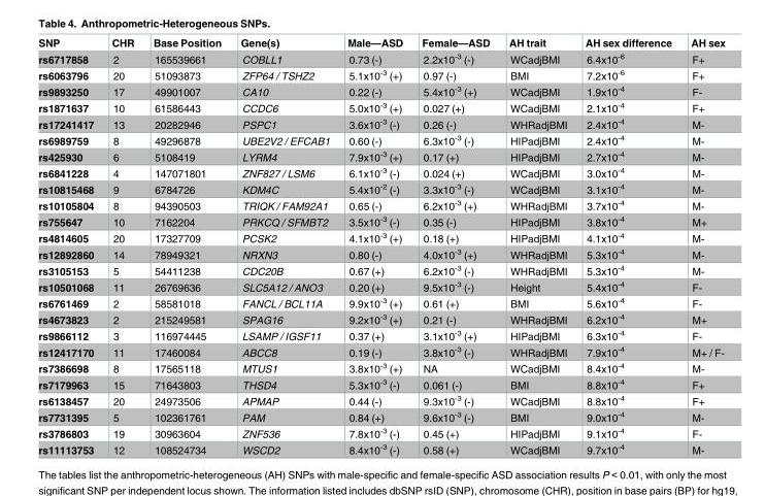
<table><thead><tr><td>SNP</td><td>CHR</td><td>Base Position</td><td>Gene(s)</td><td>Male—ASD</td><td>Female—ASD</td><td>AH trait</td><td>AH sex difference</td><td>AH sex</td></tr></thead><tbody><tr><td>rs6717858</td><td>2</td><td>165539661</td><td>COBLL1</td><td>0.73 (-)</td><td>2.2x10<sup>-3</sup> (-)</td><td>WCadjBMI</td><td>6.4x10<sup>-6</sup></td><td>F+</td></tr><tr><td>rs6063796</td><td>20</td><td>51093873</td><td>ZFP64 / TSHZ2</td><td>5.1x10<sup>-3</sup> (+)</td><td>0.97 (-)</td><td>BMI</td><td>7.2x10<sup>-6</sup></td><td>F+</td></tr><tr><td>rs9893250</td><td>17</td><td>49901007</td><td>CA10</td><td>0.22 (-)</td><td>5.4x10<sup>-3</sup> (+)</td><td>WCadjBMI</td><td>1.9x10<sup>-4</sup></td><td>F-</td></tr><tr><td>rs1871637</td><td>10</td><td>61586443</td><td>CCDC6</td><td>5.0x10<sup>-3</sup> (+)</td><td>0.027 (+)</td><td>WCadjBMI</td><td>2.1x10<sup>-4</sup></td><td>F+</td></tr><tr><td>rs17241417</td><td>13</td><td>20282946</td><td>PSPC1</td><td>3.6x10<sup>-3</sup> (-)</td><td>0.26 (-)</td><td>WHRadjBMI</td><td>2.4x10<sup>-4</sup></td><td>M-</td></tr><tr><td>rs6989759</td><td>8</td><td>49296878</td><td>UBE2V2 / EFCAB1</td><td>0.60 (-)</td><td>6.3x10<sup>-3</sup> (-)</td><td>HIPadjBMI</td><td>2.4x10<sup>-4</sup></td><td>M-</td></tr><tr><td>rs425930</td><td>6</td><td>5108419</td><td>LYRM4</td><td>7.9x10<sup>-3</sup> (+)</td><td>0.17 (+)</td><td>HIPadjBMI</td><td>2.7x10<sup>-4</sup></td><td>M-</td></tr><tr><td>rs6841228</td><td>4</td><td>147071801</td><td>ZNF827 / LSM6</td><td>6.1x10<sup>-3</sup> (-)</td><td>0.024 (+)</td><td>WCadjBMI</td><td>3.0x10<sup>-4</sup></td><td>M-</td></tr><tr><td>rs10815468</td><td>9</td><td>6784726</td><td>KDM4C</td><td>5.4x10<sup>-2</sup> (-)</td><td>3.3x10<sup>-3</sup> (-)</td><td>WCadjBMI</td><td>3.1x10<sup>-4</sup></td><td>M-</td></tr><tr><td>rs10105804</td><td>8</td><td>94390503</td><td>TRIQK / FAM92A1</td><td>0.65 (-)</td><td>6.2x10<sup>-3</sup> (+)</td><td>WHRadjBMI</td><td>3.7x10<sup>-4</sup></td><td>M-</td></tr><tr><td>rs755647</td><td>10</td><td>7162204</td><td>PRKCQ / SFMBT2</td><td>3.5x10<sup>-3</sup> (-)</td><td>0.35 (-)</td><td>HIPadjBMI</td><td>3.8x10<sup>-4</sup></td><td>M+</td></tr><tr><td>rs4814605</td><td>20</td><td>17327709</td><td>PCSK2</td><td>4.1x10<sup>-3</sup> (+)</td><td>0.18 (+)</td><td>HIPadjBMI</td><td>4.1x10<sup>-4</sup></td><td>M-</td></tr><tr><td>rs12892860</td><td>14</td><td>78949321</td><td>NRXN3</td><td>0.80 (-)</td><td>4.0x10<sup>-3</sup> (+)</td><td>WHRadjBMI</td><td>5.3x10<sup>-4</sup></td><td>M-</td></tr><tr><td>rs3105153</td><td>5</td><td>54411238</td><td>CDC20B</td><td>0.67 (+)</td><td>6.2x10<sup>-3</sup> (-)</td><td>WHRadjBMI</td><td>5.3x10<sup>-4</sup></td><td>M-</td></tr><tr><td>rs10501068</td><td>11</td><td>26769636</td><td>SLC5A12 / ANO3</td><td>0.20 (+)</td><td>9.5x10<sup>-3</sup> (-)</td><td>Height</td><td>5.4x10<sup>-4</sup></td><td>F-</td></tr><tr><td>rs6761469</td><td>2</td><td>58581018</td><td>FANCL / BCL11A</td><td>9.9x10<sup>-3</sup> (+)</td><td>0.61 (+)</td><td>BMI</td><td>5.6x10<sup>-4</sup></td><td>F-</td></tr><tr><td>rs4673823</td><td>2</td><td>215249581</td><td>SPAG16</td><td>9.2x10<sup>-3</sup> (+)</td><td>0.21 (-)</td><td>WHRadjBMI</td><td>6.2x10<sup>-4</sup></td><td>M+</td></tr><tr><td>rs9866112</td><td>3</td><td>116974445</td><td>LSAMP / IGSF11</td><td>0.37 (+)</td><td>3.1x10<sup>-3</sup> (+)</td><td>HIPadjBMI</td><td>6.3x10<sup>-4</sup></td><td>F-</td></tr><tr><td>rs12417170</td><td>11</td><td>17460084</td><td>ABCC8</td><td>0.19 (-)</td><td>3.8x10<sup>-3</sup> (-)</td><td>WHRadjBMI</td><td>7.9x10<sup>-4</sup></td><td>M+ / F-</td></tr><tr><td>rs7386698</td><td>8</td><td>17565118</td><td>MTUS1</td><td>3.8x10<sup>-3</sup> (+)</td><td>NA</td><td>WCadjBMI</td><td>8.4x10<sup>-4</sup></td><td>M-</td></tr><tr><td>rs7179963</td><td>15</td><td>71643803</td><td>THSD4</td><td>5.3x10<sup>-3</sup> (-)</td><td>0.061 (-)</td><td>BMI</td><td>8.8x10<sup>-4</sup></td><td>F+</td></tr><tr><td>rs6138457</td><td>20</td><td>24973506</td><td>APMAP</td><td>0.44 (-)</td><td>9.3x10<sup>-3</sup> (-)</td><td>WCadjBMI</td><td>8.8x10<sup>-4</sup></td><td>F+</td></tr><tr><td>rs7731395</td><td>5</td><td>102361761</td><td>PAM</td><td>0.84 (+)</td><td>9.6x10<sup>-3</sup> (-)</td><td>BMI</td><td>9.0x10<sup>-4</sup></td><td>M-</td></tr><tr><td>rs3786803</td><td>19</td><td>30963604</td><td>ZNF536</td><td>7.8x10<sup>-3</sup> (-)</td><td>0.45 (+)</td><td>HIPadjBMI</td><td>9.1x10<sup>-4</sup></td><td>F-</td></tr><tr><td>rs11113753</td><td>12</td><td>108524734</td><td>WSCD2</td><td>8.4x10<sup>-3</sup> (-)</td><td>0.58 (+)</td><td>WCadjBMI</td><td>9.7x10<sup>-4</sup></td><td>M-</td></tr></tbody></table>